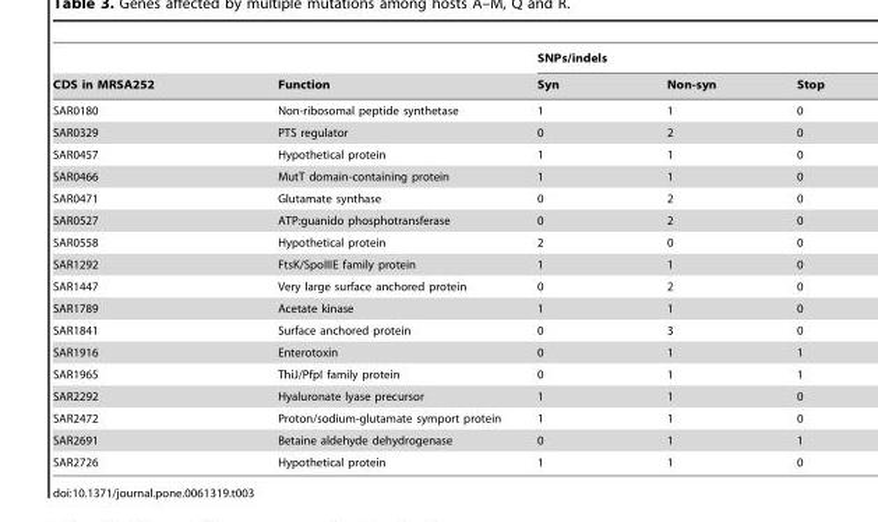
<table><thead><tr><td rowspan="2">CDS in MRSA252</td><td rowspan="2">Function</td><td colspan="3">SNPs/indels</td></tr><tr><td>Syn</td><td>Non-syn</td><td>Stop</td></tr></thead><tbody><tr><td>SAR0180</td><td>Non-ribosomal peptide synthetase</td><td>1</td><td>1</td><td>0</td></tr><tr><td>SAR0329</td><td>PTS regulator</td><td>0</td><td>2</td><td>0</td></tr><tr><td>SAR0457</td><td>Hypothetical protein</td><td>1</td><td>1</td><td>0</td></tr><tr><td>SAR0466</td><td>MutT domain-containing protein</td><td>1</td><td>1</td><td>0</td></tr><tr><td>SAR0471</td><td>Glutamate synthase</td><td>0</td><td>2</td><td>0</td></tr><tr><td>SAR0527</td><td>ATP:guanido phosphotransferase</td><td>0</td><td>2</td><td>0</td></tr><tr><td>SAR0558</td><td>Hypothetical protein</td><td>2</td><td>0</td><td>0</td></tr><tr><td>SAR1292</td><td>FtsK/SpoIIIE family protein</td><td>1</td><td>1</td><td>0</td></tr><tr><td>SAR1447</td><td>Very large surface anchored protein</td><td>0</td><td>2</td><td>0</td></tr><tr><td>SAR1789</td><td>Acetate kinase</td><td>1</td><td>1</td><td>0</td></tr><tr><td>SAR1841</td><td>Surface anchored protein</td><td>0</td><td>3</td><td>0</td></tr><tr><td>SAR1916</td><td>Enterotoxin</td><td>0</td><td>1</td><td>1</td></tr><tr><td>SAR1965</td><td>ThiJ/PfpI family protein</td><td>0</td><td>1</td><td>1</td></tr><tr><td>SAR2292</td><td>Hyaluronate lyase precursor</td><td>1</td><td>1</td><td>0</td></tr><tr><td>SAR2472</td><td>Proton/sodium-glutamate symport protein</td><td>1</td><td>1</td><td>0</td></tr><tr><td>SAR2691</td><td>Betaine aldehyde dehydrogenase</td><td>0</td><td>1</td><td>1</td></tr><tr><td>SAR2726</td><td>Hypothetical protein</td><td>1</td><td>1</td><td>0</td></tr></tbody></table>